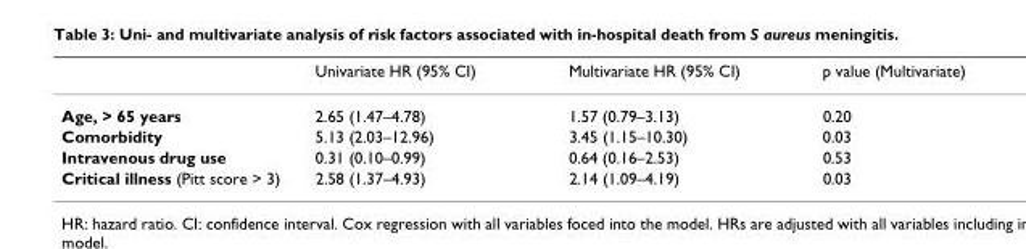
<table><thead><tr><td></td><td>Univariate HR (95% CI)</td><td>Multivariate HR (95% CI)</td><td>p value (Multivariate)</td></tr></thead><tbody><tr><td>Age, &gt; 65 years</td><td>2.65 (1.47–4.78)</td><td>1.57 (0.79–3.13)</td><td>0.20</td></tr><tr><td>Comorbidity</td><td>5.13 (2.03–12.96)</td><td>3.45 (1.15–10.30)</td><td>0.03</td></tr><tr><td>Intravenous drug use</td><td>0.31 (0.10–0.99)</td><td>0.64 (0.16–2.53)</td><td>0.53</td></tr><tr><td>Critical illness (Pitt score &gt; 3)</td><td>2.58 (1.37–4.93)</td><td>2.14 (1.09–4.19)</td><td>0.03</td></tr></tbody></table>